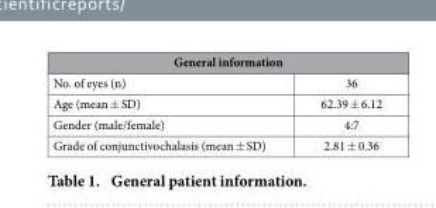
<table><thead><tr><td colspan="2">General information</td></tr><tr><td>No. of eyes (n)</td><td>36</td></tr></thead><tbody><tr><td>Age (mean ± SD)</td><td>62.39 ± 6.12</td></tr><tr><td>Gender (male/female)</td><td>4:7</td></tr><tr><td>Grade of conjunctivochalasis (mean ± SD)</td><td>2.81 ± 0.36</td></tr></tbody></table>